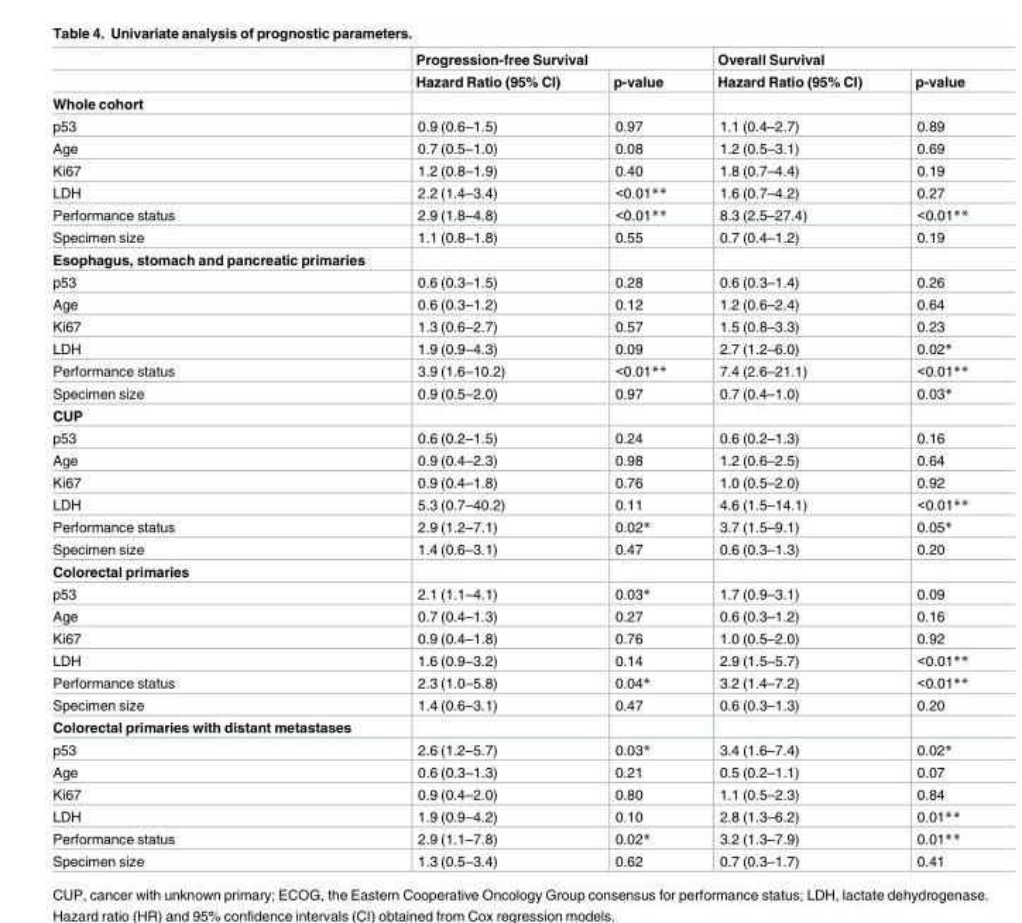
<table><thead><tr><td rowspan="2"></td><td colspan="2">Progression-free Survival</td><td colspan="2">Overall Survival</td></tr><tr><td>Hazard Ratio (95% CI)</td><td>p-value</td><td>Hazard Ratio (95% CI)</td><td>p-value</td></tr></thead><tbody><tr><td colspan="5">Whole cohort</td></tr><tr><td>p53</td><td>0.9 (0.6–1.5)</td><td>0.97</td><td>1.1 (0.4–2.7)</td><td>0.89</td></tr><tr><td>Age</td><td>0.7 (0.5–1.0)</td><td>0.08</td><td>1.2 (0.5–3.1)</td><td>0.69</td></tr><tr><td>Ki67</td><td>1.2 (0.8–1.9)</td><td>0.40</td><td>1.8 (0.7–4.4)</td><td>0.19</td></tr><tr><td>LDH</td><td>2.2 (1.4–3.4)</td><td>&lt;0.01**</td><td>1.6 (0.7–4.2)</td><td>0.27</td></tr><tr><td>Performance status</td><td>2.9 (1.8–4.8)</td><td>&lt;0.01**</td><td>8.3 (2.5–27.4)</td><td>&lt;0.01**</td></tr><tr><td>Specimen size</td><td>1.1 (0.8–1.8)</td><td>0.55</td><td>0.7 (0.4–1.2)</td><td>0.19</td></tr><tr><td colspan="5">Esophagus, stomach and pancreatic primaries</td></tr><tr><td>p53</td><td>0.6 (0.3–1.5)</td><td>0.28</td><td>0.6 (0.3–1.4)</td><td>0.26</td></tr><tr><td>Age</td><td>0.6 (0.3–1.2)</td><td>0.12</td><td>1.2 (0.6–2.4)</td><td>0.64</td></tr><tr><td>Ki67</td><td>1.3 (0.6–2.7)</td><td>0.57</td><td>1.5 (0.8–3.3)</td><td>0.23</td></tr><tr><td>LDH</td><td>1.9 (0.9–4.3)</td><td>0.09</td><td>2.7 (1.2–6.0)</td><td>0.02*</td></tr><tr><td>Performance status</td><td>3.9 (1.6–10.2)</td><td>&lt;0.01**</td><td>7.4 (2.6–21.1)</td><td>&lt;0.01**</td></tr><tr><td>Specimen size</td><td>0.9 (0.5–2.0)</td><td>0.97</td><td>0.7 (0.4–1.0)</td><td>0.03*</td></tr><tr><td colspan="5">CUP</td></tr><tr><td>p53</td><td>0.6 (0.2–1.5)</td><td>0.24</td><td>0.6 (0.2–1.3)</td><td>0.16</td></tr><tr><td>Age</td><td>0.9 (0.4–2.3)</td><td>0.98</td><td>1.2 (0.6–2.5)</td><td>0.64</td></tr><tr><td>Ki67</td><td>0.9 (0.4–1.8)</td><td>0.76</td><td>1.0 (0.5–2.0)</td><td>0.92</td></tr><tr><td>LDH</td><td>5.3 (0.7–40.2)</td><td>0.11</td><td>4.6 (1.5–14.1)</td><td>&lt;0.01**</td></tr><tr><td>Performance status</td><td>2.9 (1.2–7.1)</td><td>0.02*</td><td>3.7 (1.5–9.1)</td><td>0.05*</td></tr><tr><td>Specimen size</td><td>1.4 (0.6–3.1)</td><td>0.47</td><td>0.6 (0.3–1.3)</td><td>0.20</td></tr><tr><td colspan="5">Colorectal primaries</td></tr><tr><td>p53</td><td>2.1 (1.1–4.1)</td><td>0.03*</td><td>1.7 (0.9–3.1)</td><td>0.09</td></tr><tr><td>Age</td><td>0.7 (0.4–1.3)</td><td>0.27</td><td>0.6 (0.3–1.2)</td><td>0.16</td></tr><tr><td>Ki67</td><td>0.9 (0.4–1.8)</td><td>0.76</td><td>1.0 (0.5–2.0)</td><td>0.92</td></tr><tr><td>LDH</td><td>1.6 (0.9–3.2)</td><td>0.14</td><td>2.9 (1.5–5.7)</td><td>&lt;0.01**</td></tr><tr><td>Performance status</td><td>2.3 (1.0–5.8)</td><td>0.04*</td><td>3.2 (1.4–7.2)</td><td>&lt;0.01**</td></tr><tr><td>Specimen size</td><td>1.4 (0.6–3.1)</td><td>0.47</td><td>0.6 (0.3–1.3)</td><td>0.20</td></tr><tr><td colspan="5">Colorectal primaries with distant metastases</td></tr><tr><td>p53</td><td>2.6 (1.2–5.7)</td><td>0.03*</td><td>3.4 (1.6–7.4)</td><td>0.02*</td></tr><tr><td>Age</td><td>0.6 (0.3–1.3)</td><td>0.21</td><td>0.5 (0.2–1.1)</td><td>0.07</td></tr><tr><td>Ki67</td><td>0.9 (0.4–2.0)</td><td>0.80</td><td>1.1 (0.5–2.3)</td><td>0.84</td></tr><tr><td>LDH</td><td>1.9 (0.9–4.2)</td><td>0.10</td><td>2.8 (1.3–6.2)</td><td>0.01**</td></tr><tr><td>Performance status</td><td>2.9 (1.1–7.8)</td><td>0.02*</td><td>3.2 (1.3–7.9)</td><td>0.01**</td></tr><tr><td>Specimen size</td><td>1.3 (0.5–3.4)</td><td>0.62</td><td>0.7 (0.3–1.7)</td><td>0.41</td></tr></tbody></table>